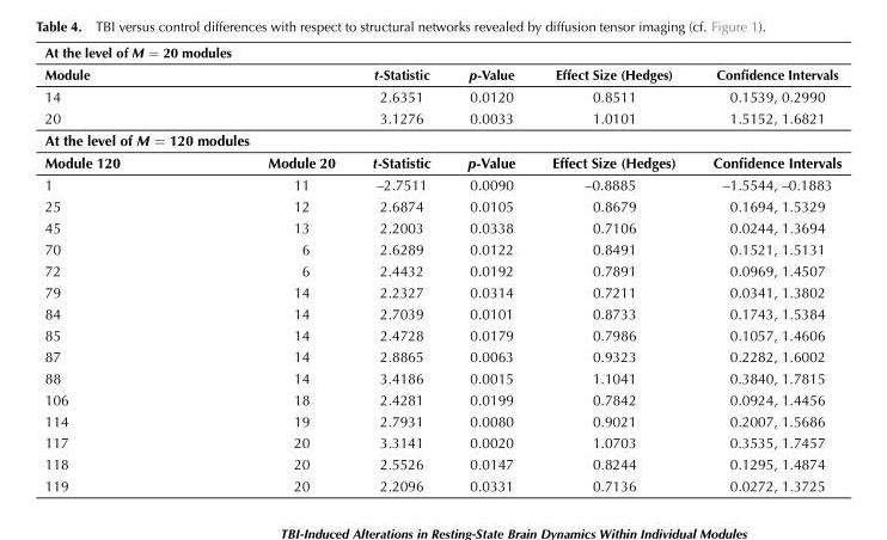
<table><thead><tr><td colspan="6">At the level of M = 20 modules</td></tr><tr><td colspan="2">Module</td><td>t-Statistic</td><td>p-Value</td><td>Effect Size (Hedges)</td><td>Confidence Intervals</td></tr></thead><tbody><tr><td colspan="2">14</td><td>2.6351</td><td>0.0120</td><td>0.8511</td><td>0.1539, 0.2990</td></tr><tr><td colspan="2">20</td><td>3.1276</td><td>0.0033</td><td>1.0101</td><td>1.5152, 1.6821</td></tr><tr><td colspan="6">At the level of M = 120 modules</td></tr><tr><td>Module 120</td><td>Module 20</td><td>t-Statistic</td><td>p-Value</td><td>Effect Size (Hedges)</td><td>Confidence Intervals</td></tr><tr><td>1</td><td>11</td><td>–2.7511</td><td>0.0090</td><td>–0.8885</td><td>–1.5544, –0.1883</td></tr><tr><td>25</td><td>12</td><td>2.6874</td><td>0.0105</td><td>0.8679</td><td>0.1694, 1.5329</td></tr><tr><td>45</td><td>13</td><td>2.2003</td><td>0.0338</td><td>0.7106</td><td>0.0244, 1.3694</td></tr><tr><td>70</td><td>6</td><td>2.6289</td><td>0.0122</td><td>0.8491</td><td>0.1521, 1.5131</td></tr><tr><td>72</td><td>6</td><td>2.4432</td><td>0.0192</td><td>0.7891</td><td>0.0969, 1.4507</td></tr><tr><td>79</td><td>14</td><td>2.2327</td><td>0.0314</td><td>0.7211</td><td>0.0341, 1.3802</td></tr><tr><td>84</td><td>14</td><td>2.7039</td><td>0.0101</td><td>0.8733</td><td>0.1743, 1.5384</td></tr><tr><td>85</td><td>14</td><td>2.4728</td><td>0.0179</td><td>0.7986</td><td>0.1057, 1.4606</td></tr><tr><td>87</td><td>14</td><td>2.8865</td><td>0.0063</td><td>0.9323</td><td>0.2282, 1.6002</td></tr><tr><td>88</td><td>14</td><td>3.4186</td><td>0.0015</td><td>1.1041</td><td>0.3840, 1.7815</td></tr><tr><td>106</td><td>18</td><td>2.4281</td><td>0.0199</td><td>0.7842</td><td>0.0924, 1.4456</td></tr><tr><td>114</td><td>19</td><td>2.7931</td><td>0.0080</td><td>0.9021</td><td>0.2007, 1.5686</td></tr><tr><td>117</td><td>20</td><td>3.3141</td><td>0.0020</td><td>1.0703</td><td>0.3535, 1.7457</td></tr><tr><td>118</td><td>20</td><td>2.5526</td><td>0.0147</td><td>0.8244</td><td>0.1295, 1.4874</td></tr><tr><td>119</td><td>20</td><td>2.2096</td><td>0.0331</td><td>0.7136</td><td>0.0272, 1.3725</td></tr></tbody></table>